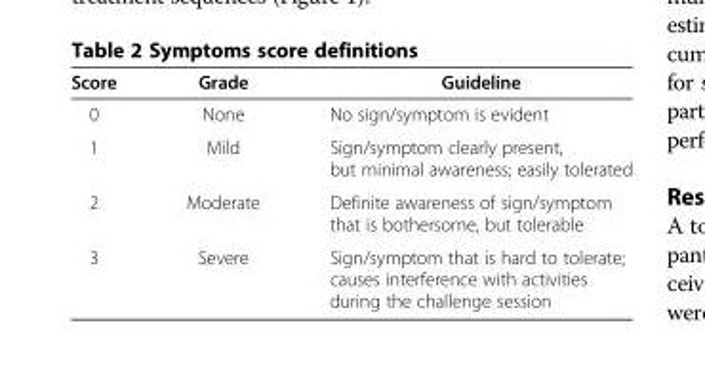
<table><thead><tr><td>Score</td><td>Grade</td><td>Guideline</td></tr></thead><tbody><tr><td>0</td><td>None</td><td>No sign/symptom is evident</td></tr><tr><td>1</td><td>Mild</td><td>Sign/symptom clearly present, but minimal awareness; easily tolerated</td></tr><tr><td>2</td><td>Moderate</td><td>Definite awareness of sign/symptom that is bothersome, but tolerable</td></tr><tr><td>3</td><td>Severe</td><td>Sign/symptom that is hard to tolerate; causes interference with activities during the challenge session</td></tr></tbody></table>